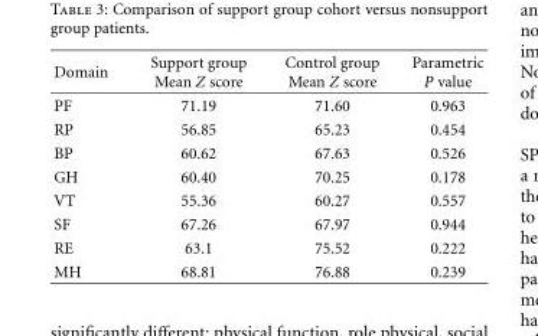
<table><thead><tr><td>Domain</td><td>Support group Mean Z score</td><td>Control group Mean Z score</td><td>Parametric P value</td></tr></thead><tbody><tr><td>PF</td><td>71.19</td><td>71.60</td><td>0.963</td></tr><tr><td>RP</td><td>56.85</td><td>65.23</td><td>0.454</td></tr><tr><td>BP</td><td>60.62</td><td>67.63</td><td>0.526</td></tr><tr><td>GH</td><td>60.40</td><td>70.25</td><td>0.178</td></tr><tr><td>VT</td><td>55.36</td><td>60.27</td><td>0.557</td></tr><tr><td>SF</td><td>67.26</td><td>67.97</td><td>0.944</td></tr><tr><td>RE</td><td>63.1</td><td>75.52</td><td>0.222</td></tr><tr><td>MH</td><td>68.81</td><td>76.88</td><td>0.239</td></tr></tbody></table>